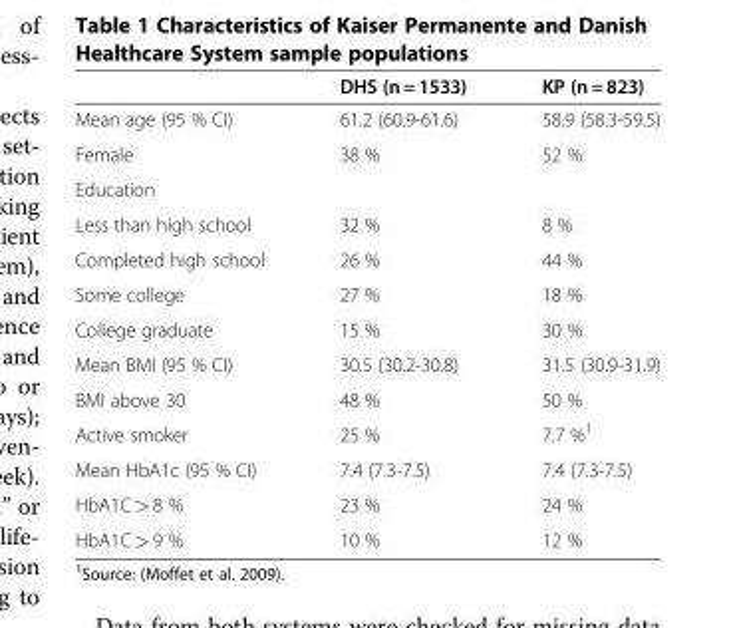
<table><thead><tr><td></td><td>DHS (n = 1533)</td><td>KP (n = 823)</td></tr></thead><tbody><tr><td>Mean age (95 % CI)</td><td>61.2 (60.9-61.6)</td><td>58.9 (58.3-59.5)</td></tr><tr><td>Female</td><td>38 %</td><td>52 %</td></tr><tr><td colspan="3">Education</td></tr><tr><td>Less than high school</td><td>32 %</td><td>8 %</td></tr><tr><td>Completed high school</td><td>26 %</td><td>44 %</td></tr><tr><td>Some college</td><td>27 %</td><td>18 %</td></tr><tr><td>College graduate</td><td>15 %</td><td>30 %</td></tr><tr><td>Mean BMI (95 % CI)</td><td>30.5 (30.2-30.8)</td><td>31.5 (30.9-31.9)</td></tr><tr><td>BMI above 30</td><td>48 %</td><td>50 %</td></tr><tr><td>Active smoker</td><td>25 %</td><td>7.7 %<sup>1</sup></td></tr><tr><td>Mean HbA1c (95 % CI)</td><td>7.4 (7.3-7.5)</td><td>7.4 (7.3-7.5)</td></tr><tr><td>HbA1C &gt; 8 %</td><td>23 %</td><td>24 %</td></tr><tr><td>HbA1C &gt; 9 %</td><td>10 %</td><td>12 %</td></tr></tbody></table>